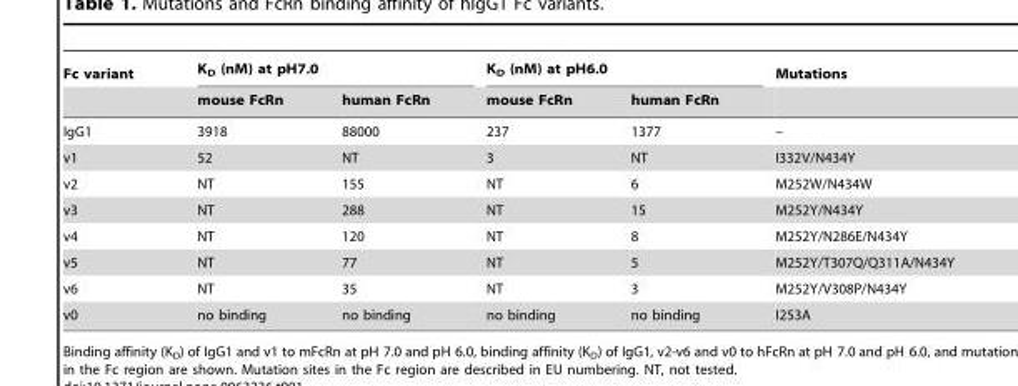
<table><thead><tr><td rowspan="2">Fc variant</td><td colspan="2">K<sub>D</sub> (nM) at pH7.0</td><td colspan="2">K<sub>D</sub> (nM) at pH6.0</td><td rowspan="2">Mutations</td></tr><tr><td>mouse FcRn</td><td>human FcRn</td><td>mouse FcRn</td><td>human FcRn</td></tr></thead><tbody><tr><td>IgG1</td><td>3918</td><td>88000</td><td>237</td><td>1377</td><td>–</td></tr><tr><td>v1</td><td>52</td><td>NT</td><td>3</td><td>NT</td><td>I332V/N434Y</td></tr><tr><td>v2</td><td>NT</td><td>155</td><td>NT</td><td>6</td><td>M252W/N434W</td></tr><tr><td>v3</td><td>NT</td><td>288</td><td>NT</td><td>15</td><td>M252Y/N434Y</td></tr><tr><td>v4</td><td>NT</td><td>120</td><td>NT</td><td>8</td><td>M252Y/N286E/N434Y</td></tr><tr><td>v5</td><td>NT</td><td>77</td><td>NT</td><td>5</td><td>M252Y/T307Q/Q311A/N434Y</td></tr><tr><td>v6</td><td>NT</td><td>35</td><td>NT</td><td>3</td><td>M252Y/V308P/N434Y</td></tr><tr><td>v0</td><td>no binding</td><td>no binding</td><td>no binding</td><td>no binding</td><td>I253A</td></tr></tbody></table>